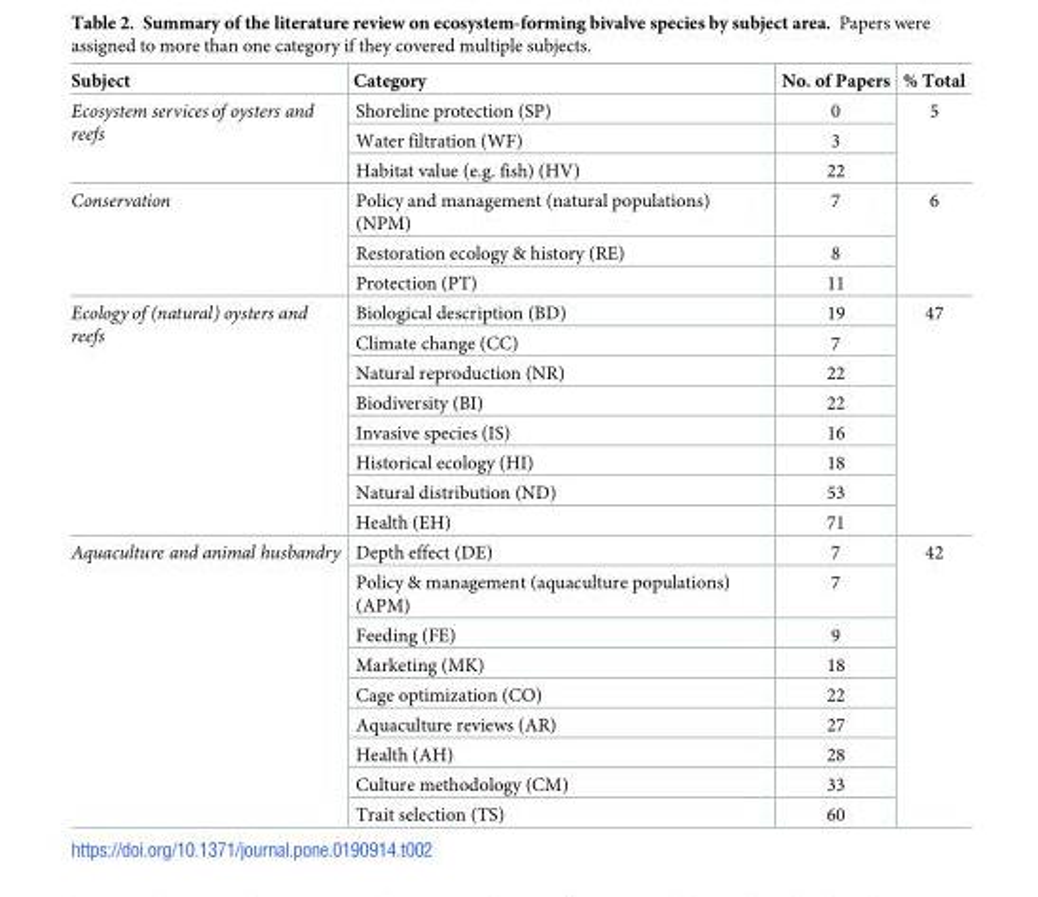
<table><thead><tr><td>Subject</td><td>Category</td><td>No. of Papers</td><td>% Total</td></tr></thead><tbody><tr><td rowspan="3">Ecosystem services of oysters and reefs</td><td>Shoreline protection (SP)</td><td>0</td><td rowspan="3">5</td></tr><tr><td>Water filtration (WF)</td><td>3</td></tr><tr><td>Habitat value (e.g. fish) (HV)</td><td>22</td></tr><tr><td rowspan="3">Conservation</td><td>Policy and management (natural populations) (NPM)</td><td>7</td><td rowspan="3">6</td></tr><tr><td>Restoration ecology &amp; history (RE)</td><td>8</td></tr><tr><td>Protection (PT)</td><td>11</td></tr><tr><td rowspan="8">Ecology of (natural) oysters and reefs</td><td>Biological description (BD)</td><td>19</td><td rowspan="8">47</td></tr><tr><td>Climate change (CC)</td><td>7</td></tr><tr><td>Natural reproduction (NR)</td><td>22</td></tr><tr><td>Biodiversity (BI)</td><td>22</td></tr><tr><td>Invasive species (IS)</td><td>16</td></tr><tr><td>Historical ecology (HI)</td><td>18</td></tr><tr><td>Natural distribution (ND)</td><td>53</td></tr><tr><td>Health (EH)</td><td>71</td></tr><tr><td rowspan="9">Aquaculture and animal husbandry</td><td>Depth effect (DE)</td><td>7</td><td rowspan="9">42</td></tr><tr><td>Policy &amp; management (aquaculture populations) (APM)</td><td>7</td></tr><tr><td>Feeding (FE)</td><td>9</td></tr><tr><td>Marketing (MK)</td><td>18</td></tr><tr><td>Cage optimization (CO)</td><td>22</td></tr><tr><td>Aquaculture reviews (AR)</td><td>27</td></tr><tr><td>Health (AH)</td><td>28</td></tr><tr><td>Culture methodology (CM)</td><td>33</td></tr><tr><td>Trait selection (TS)</td><td>60</td></tr></tbody></table>